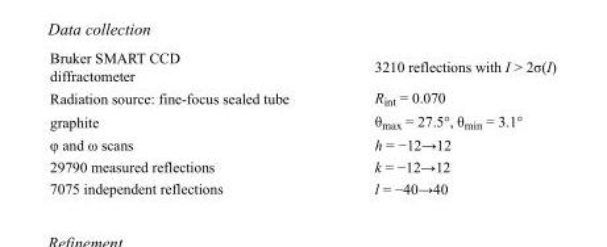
<table><tbody><tr><td>Bruker SMART CCD diffractometer</td><td>3210 reflections with I &gt; 2σ(I)</td></tr><tr><td>Radiation source: fine-focus sealed tube</td><td>R<sub>int</sub> = 0.070</td></tr><tr><td>graphite</td><td>θ<sub>max</sub> = 27.5°, θ<sub>min</sub> = 3.1°</td></tr><tr><td>φ and ω scans</td><td>h = −12→12</td></tr><tr><td>29790 measured reflections</td><td>k = −12→12</td></tr><tr><td>7075 independent reflections</td><td>l = −40→40</td></tr></tbody></table>